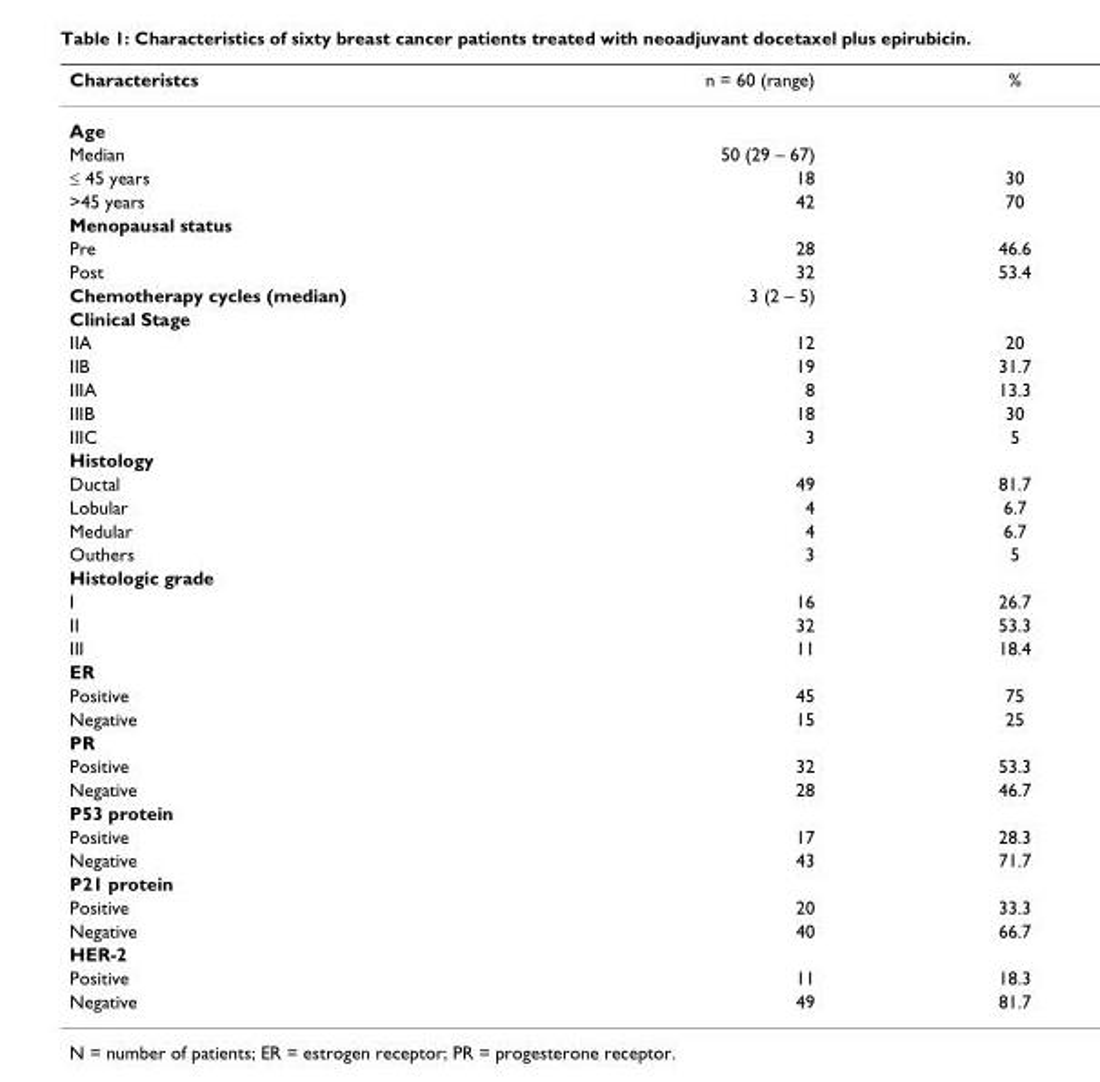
<table><thead><tr><td>Characteristcs</td><td>n = 60 (range)</td><td>%</td></tr></thead><tbody><tr><td colspan="3">Age</td></tr><tr><td>Median</td><td>50 (29 – 67)</td><td></td></tr><tr><td>≤ 45 years</td><td>18</td><td>30</td></tr><tr><td>&gt;45 years</td><td>42</td><td>70</td></tr><tr><td colspan="3">Menopausal status</td></tr><tr><td>Pre</td><td>28</td><td>46.6</td></tr><tr><td>Post</td><td>32</td><td>53.4</td></tr><tr><td>Chemotherapy cycles (median)</td><td>3 (2 – 5)</td><td></td></tr><tr><td colspan="3">Clinical Stage</td></tr><tr><td>IIA</td><td>12</td><td>20</td></tr><tr><td>IIB</td><td>19</td><td>31.7</td></tr><tr><td>IIIA</td><td>8</td><td>13.3</td></tr><tr><td>IIIB</td><td>18</td><td>30</td></tr><tr><td>IIIC</td><td>3</td><td>5</td></tr><tr><td colspan="3">Histology</td></tr><tr><td>Ductal</td><td>49</td><td>81.7</td></tr><tr><td>Lobular</td><td>4</td><td>6.7</td></tr><tr><td>Medular</td><td>4</td><td>6.7</td></tr><tr><td>Outhers</td><td>3</td><td>5</td></tr><tr><td colspan="3">Histologic grade</td></tr><tr><td>I</td><td>16</td><td>26.7</td></tr><tr><td>II</td><td>32</td><td>53.3</td></tr><tr><td>III</td><td>11</td><td>18.4</td></tr><tr><td colspan="3">ER</td></tr><tr><td>Positive</td><td>45</td><td>75</td></tr><tr><td>Negative</td><td>15</td><td>25</td></tr><tr><td colspan="3">PR</td></tr><tr><td>Positive</td><td>32</td><td>53.3</td></tr><tr><td>Negative</td><td>28</td><td>46.7</td></tr><tr><td colspan="3">P53 protein</td></tr><tr><td>Positive</td><td>17</td><td>28.3</td></tr><tr><td>Negative</td><td>43</td><td>71.7</td></tr><tr><td colspan="3">P21 protein</td></tr><tr><td>Positive</td><td>20</td><td>33.3</td></tr><tr><td>Negative</td><td>40</td><td>66.7</td></tr><tr><td colspan="3">HER-2</td></tr><tr><td>Positive</td><td>11</td><td>18.3</td></tr><tr><td>Negative</td><td>49</td><td>81.7</td></tr></tbody></table>